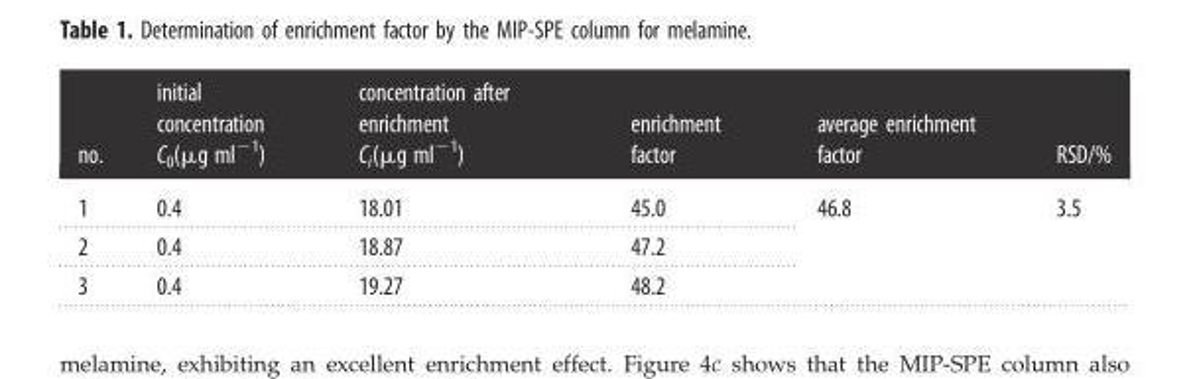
<table><thead><tr><td>no.</td><td>initial concentration C<sub>0</sub>(μg ml<sup>−1</sup>)</td><td>concentration after enrichment C<sub>i</sub>(μg ml<sup>−1</sup>)</td><td>enrichment factor</td><td>average enrichment factor</td><td>RSD/%</td></tr></thead><tbody><tr><td>1</td><td>0.4</td><td>18.01</td><td>45.0</td><td rowspan="3">46.8</td><td rowspan="3">3.5</td></tr><tr><td>2</td><td>0.4</td><td>18.87</td><td>47.2</td></tr><tr><td>3</td><td>0.4</td><td>19.27</td><td>48.2</td></tr></tbody></table>